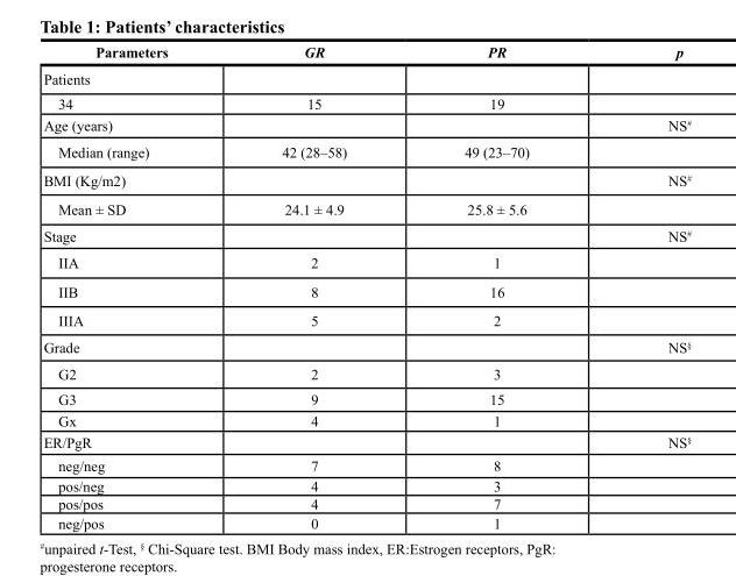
<table><thead><tr><td>Parameters</td><td>GR</td><td>PR</td><td>p</td></tr></thead><tbody><tr><td colspan="4">Patients</td></tr><tr><td>34</td><td>15</td><td>19</td><td></td></tr><tr><td>Age (years)</td><td></td><td></td><td>NS<sup>#</sup></td></tr><tr><td>Median (range)</td><td>42 (28–58)</td><td>49 (23–70)</td><td></td></tr><tr><td>BMI (Kg/m2)</td><td></td><td></td><td>NS<sup>#</sup></td></tr><tr><td>Mean ± SD</td><td>24.1 ± 4.9</td><td>25.8 ± 5.6</td><td></td></tr><tr><td>Stage</td><td></td><td></td><td>NS<sup>#</sup></td></tr><tr><td>IIA</td><td>2</td><td>1</td><td></td></tr><tr><td>IIB</td><td>8</td><td>16</td><td></td></tr><tr><td>IIIA</td><td>5</td><td>2</td><td></td></tr><tr><td>Grade</td><td></td><td></td><td>NS<sup>§</sup></td></tr><tr><td>G2</td><td>2</td><td>3</td><td></td></tr><tr><td>G3</td><td>9</td><td>15</td><td></td></tr><tr><td>Gx</td><td>4</td><td>1</td><td></td></tr><tr><td>ER/PgR</td><td></td><td></td><td>NS<sup>§</sup></td></tr><tr><td>neg/neg</td><td>7</td><td>8</td><td></td></tr><tr><td>pos/neg</td><td>4</td><td>3</td><td></td></tr><tr><td>pos/pos</td><td>4</td><td>7</td><td></td></tr><tr><td>neg/pos</td><td>0</td><td>1</td><td></td></tr></tbody></table>